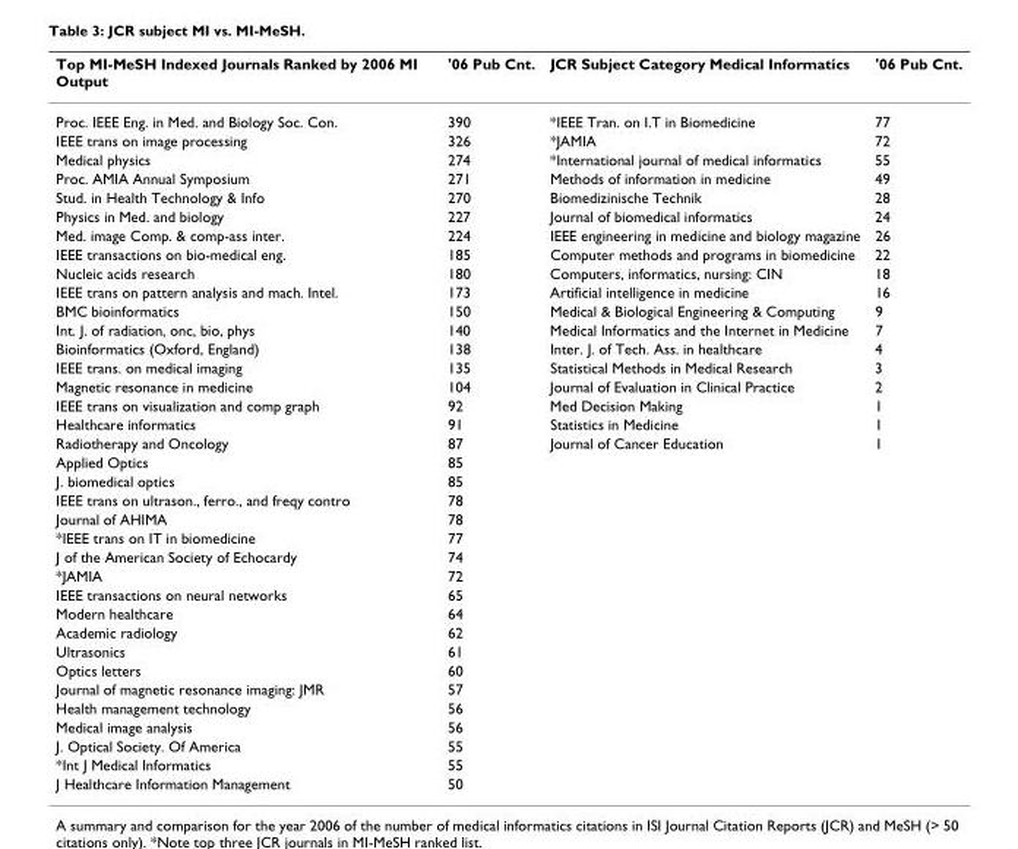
<table><thead><tr><td>Top MI-MeSH Indexed Journals Ranked by 2006 MI Output</td><td>&#x27;06 Pub Cnt.</td><td>JCR Subject Category Medical Informatics</td><td>&#x27;06 Pub Cnt.</td></tr></thead><tbody><tr><td>Proc. IEEE Eng. in Med. and Biology Soc. Con.</td><td>390</td><td>*IEEE Tran. on I.T in Biomedicine</td><td>77</td></tr><tr><td>IEEE trans on image processing</td><td>326</td><td>*JAMIA</td><td>72</td></tr><tr><td>Medical physics</td><td>274</td><td>*International journal of medical informatics</td><td>55</td></tr><tr><td>Proc. AMIA Annual Symposium</td><td>271</td><td>Methods of information in medicine</td><td>49</td></tr><tr><td>Stud. in Health Technology &amp; Info</td><td>270</td><td>Biomedizinische Technik</td><td>28</td></tr><tr><td>Physics in Med. and biology</td><td>227</td><td>Journal of biomedical informatics</td><td>24</td></tr><tr><td>Med. image Comp. &amp; comp-ass inter.</td><td>224</td><td>IEEE engineering in medicine and biology magazine</td><td>26</td></tr><tr><td>IEEE transactions on bio-medical eng.</td><td>185</td><td>Computer methods and programs in biomedicine</td><td>22</td></tr><tr><td>Nucleic acids research</td><td>180</td><td>Computers, informatics, nursing: CIN</td><td>18</td></tr><tr><td>IEEE trans on pattern analysis and mach. Intel.</td><td>173</td><td>Artificial intelligence in medicine</td><td>16</td></tr><tr><td>BMC bioinformatics</td><td>150</td><td>Medical &amp; Biological Engineering &amp; Computing</td><td>9</td></tr><tr><td>Int. J. of radiation, onc, bio, phys</td><td>140</td><td>Medical Informatics and the Internet in Medicine</td><td>7</td></tr><tr><td>Bioinformatics (Oxford, England)</td><td>138</td><td>Inter. J. of Tech. Ass. in healthcare</td><td>4</td></tr><tr><td>IEEE trans. on medical imaging</td><td>135</td><td>Statistical Methods in Medical Research</td><td>3</td></tr><tr><td>Magnetic resonance in medicine</td><td>104</td><td>Journal of Evaluation in Clinical Practice</td><td>2</td></tr><tr><td>IEEE trans on visualization and comp graph</td><td>92</td><td>Med Decision Making</td><td>1</td></tr><tr><td>Healthcare informatics</td><td>91</td><td>Statistics in Medicine</td><td>1</td></tr><tr><td>Radiotherapy and Oncology</td><td>87</td><td>Journal of Cancer Education</td><td>1</td></tr><tr><td>Applied Optics</td><td>85</td><td></td><td></td></tr><tr><td>J. biomedical optics</td><td>85</td><td></td><td></td></tr><tr><td>IEEE trans on ultrason., ferro., and freqy contro</td><td>78</td><td></td><td></td></tr><tr><td>Journal of AHIMA</td><td>78</td><td></td><td></td></tr><tr><td>*IEEE trans on IT in biomedicine</td><td>77</td><td></td><td></td></tr><tr><td>J of the American Society of Echocardy</td><td>74</td><td></td><td></td></tr><tr><td>*JAMIA</td><td>72</td><td></td><td></td></tr><tr><td>IEEE transactions on neural networks</td><td>65</td><td></td><td></td></tr><tr><td>Modern healthcare</td><td>64</td><td></td><td></td></tr><tr><td>Academic radiology</td><td>62</td><td></td><td></td></tr><tr><td>Ultrasonics</td><td>61</td><td></td><td></td></tr><tr><td>Optics letters</td><td>60</td><td></td><td></td></tr><tr><td>Journal of magnetic resonance imaging: JMR</td><td>57</td><td></td><td></td></tr><tr><td>Health management technology</td><td>56</td><td></td><td></td></tr><tr><td>Medical image analysis</td><td>56</td><td></td><td></td></tr><tr><td>J. Optical Society. Of America</td><td>55</td><td></td><td></td></tr><tr><td>*Int J Medical Informatics</td><td>55</td><td></td><td></td></tr><tr><td>J Healthcare Information Management</td><td>50</td><td></td><td></td></tr></tbody></table>